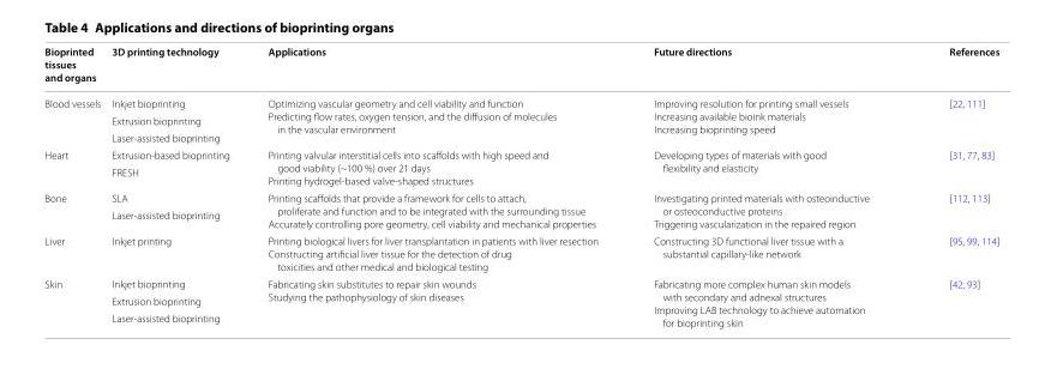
<table><thead><tr><td>Bioprinted tissues and organs</td><td>3D printing technology</td><td>Applications</td><td>Future directions</td><td>References</td></tr></thead><tbody><tr><td rowspan="3">Blood vessels</td><td>Inkjet bioprinting</td><td rowspan="3">Optimizing vascular geometry and cell viability and function Predicting flow rates, oxygen tension, and the diffusion of molecules in the vascular environment</td><td rowspan="3">Improving resolution for printing small vessels Increasing available bioink materials Increasing bioprinting speed</td><td rowspan="3">[22, 111]</td></tr><tr><td>Extrusion bioprinting</td></tr><tr><td>Laser-assisted bioprinting</td></tr><tr><td rowspan="2">Heart</td><td>Extrusion-based bioprinting</td><td rowspan="2">Printing valvular interstitial cells into scaffolds with high speed and good viability (~100 %) over 21 days Printing hydrogel-based valve-shaped structures</td><td rowspan="2">Developing types of materials with good flexibility and elasticity</td><td rowspan="2">[31, 77, 83]</td></tr><tr><td>FRESH</td></tr><tr><td rowspan="2">Bone</td><td>SLA</td><td rowspan="2">Printing scaffolds that provide a framework for cells to attach, proliferate and function and to be integrated with the surrounding tissue Accurately controlling pore geometry, cell viability and mechanical properties</td><td rowspan="2">Investigating printed materials with osteoinductive or osteoconductive proteins Triggering vascularization in the repaired region</td><td rowspan="2">[112, 113]</td></tr><tr><td>Laser-assisted bioprinting</td></tr><tr><td>Liver</td><td>Inkjet printing</td><td>Printing biological livers for liver transplantation in patients with liver resection Constructing artificial liver tissue for the detection of drug toxicities and other medical and biological testing</td><td>Constructing 3D functional liver tissue with a substantial capillary-like network</td><td>[95, 99, 114]</td></tr><tr><td rowspan="3">Skin</td><td>Inkjet bioprinting</td><td rowspan="3">Fabricating skin substitutes to repair skin wounds Studying the pathophysiology of skin diseases</td><td rowspan="3">Fabricating more complex human skin models with secondary and adnexal structures Improving LAB technology to achieve automation for bioprinting skin</td><td rowspan="3">[42, 93]</td></tr><tr><td>Extrusion bioprinting</td></tr><tr><td>Laser-assisted bioprinting</td></tr></tbody></table>